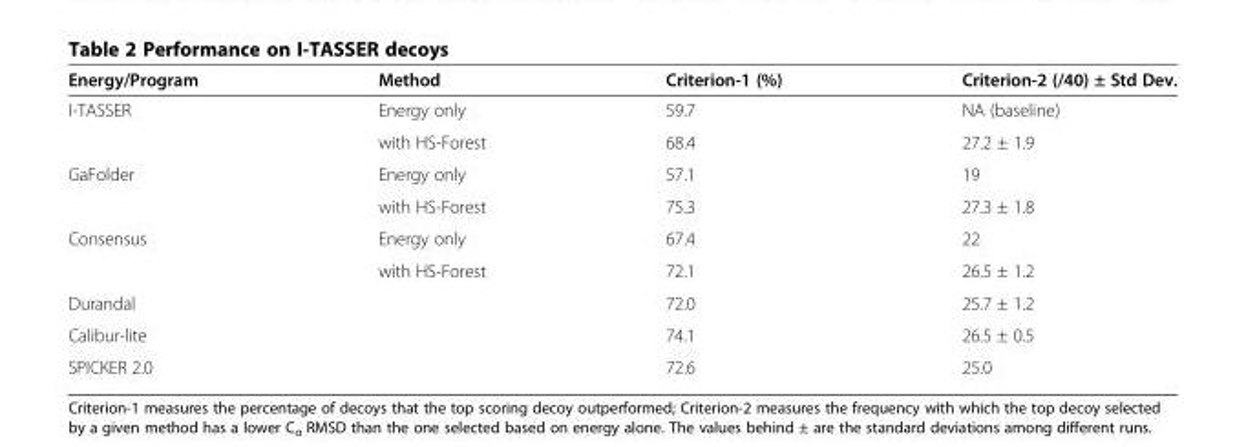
<table><thead><tr><td>Energy/Program</td><td>Method</td><td>Criterion-1 (%)</td><td>Criterion-2 (/40) ± Std Dev.</td></tr></thead><tbody><tr><td rowspan="2">I-TASSER</td><td>Energy only</td><td>59.7</td><td>NA (baseline)</td></tr><tr><td>with HS-Forest</td><td>68.4</td><td>27.2 ± 1.9</td></tr><tr><td rowspan="2">GaFolder</td><td>Energy only</td><td>57.1</td><td>19</td></tr><tr><td>with HS-Forest</td><td>75.3</td><td>27.3 ± 1.8</td></tr><tr><td rowspan="2">Consensus</td><td>Energy only</td><td>67.4</td><td>22</td></tr><tr><td>with HS-Forest</td><td>72.1</td><td>26.5 ± 1.2</td></tr><tr><td colspan="2">Durandal</td><td>72.0</td><td>25.7 ± 1.2</td></tr><tr><td colspan="2">Calibur-lite</td><td>74.1</td><td>26.5 ± 0.5</td></tr><tr><td colspan="2">SPICKER 2.0</td><td>72.6</td><td>25.0</td></tr></tbody></table>